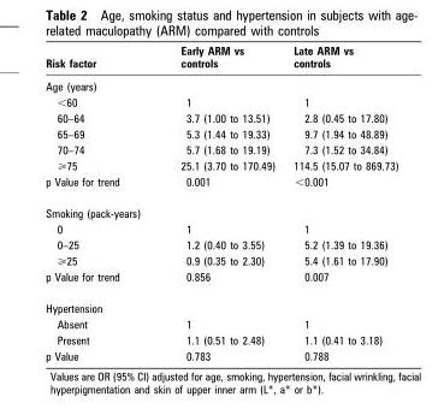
<table><thead><tr><td>Risk factor</td><td>Early ARM vs controls</td><td>Late ARM vs controls</td></tr></thead><tbody><tr><td colspan="3">Age (years)</td></tr><tr><td>&lt;60</td><td>1</td><td>1</td></tr><tr><td>60–64</td><td>3.7 (1.00 to 13.51)</td><td>2.8 (0.45 to 17.80)</td></tr><tr><td>65–69</td><td>5.3 (1.44 to 19.33)</td><td>9.7 (1.94 to 48.89)</td></tr><tr><td>70–74</td><td>5.7 (1.68 to 19.19)</td><td>7.3 (1.52 to 34.84)</td></tr><tr><td>&gt;75</td><td>25.1 (3.70 to 170.49)</td><td>114.5 (15.07 to 869.73)</td></tr><tr><td>p Value for trend</td><td>0.001</td><td>&lt;0.001</td></tr><tr><td colspan="3">Smoking (pack-years)</td></tr><tr><td>0</td><td>1</td><td>1</td></tr><tr><td>0–25</td><td>1.2 (0.40 to 3.55)</td><td>5.2 (1.39 to 19.36)</td></tr><tr><td>&gt;25</td><td>0.9 (0.35 to 2.30)</td><td>5.4 (1.61 to 17.90)</td></tr><tr><td>p Value for trend</td><td>0.856</td><td>0.007</td></tr><tr><td colspan="3">Hypertension</td></tr><tr><td>Absent</td><td>1</td><td>1</td></tr><tr><td>Present</td><td>1.1 (0.51 to 2.48)</td><td>1.1 (0.41 to 3.18)</td></tr><tr><td>p Value</td><td>0.783</td><td>0.788</td></tr></tbody></table>